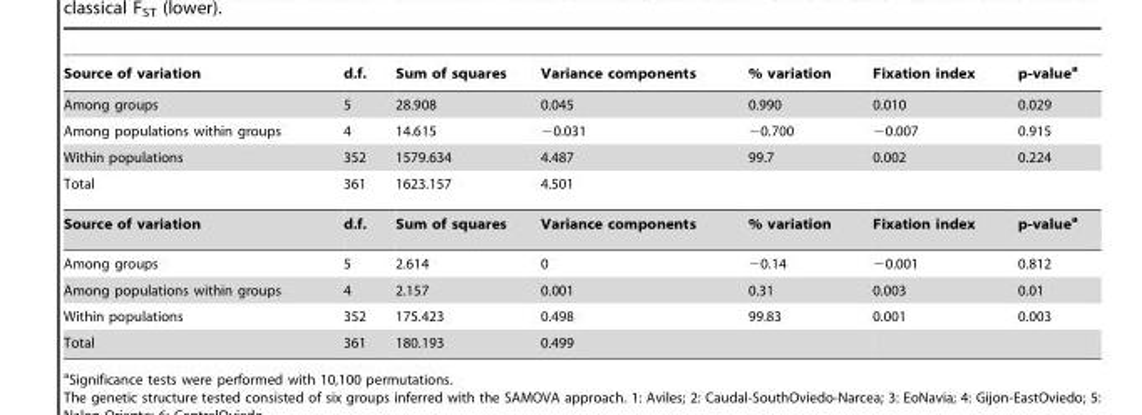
<table><thead><tr><td>Source of variation</td><td>d.f.</td><td>Sum of squares</td><td>Variance components</td><td>% variation</td><td>Fixation index</td><td>p-value<sup>a</sup></td></tr></thead><tbody><tr><td>Among groups</td><td>5</td><td>28.908</td><td>0.045</td><td>0.990</td><td>0.010</td><td>0.029</td></tr><tr><td>Among populations within groups</td><td>4</td><td>14.615</td><td>−0.031</td><td>−0.700</td><td>−0.007</td><td>0.915</td></tr><tr><td>Within populations</td><td>352</td><td>1579.634</td><td>4.487</td><td>99.7</td><td>0.002</td><td>0.224</td></tr><tr><td>Total</td><td>361</td><td>1623.157</td><td>4.501</td><td></td><td></td><td></td></tr><tr><td>Source of variation</td><td>d.f.</td><td>Sum of squares</td><td>Variance components</td><td>% variation</td><td>Fixation index</td><td>p-valuea</td></tr><tr><td>Among groups</td><td>5</td><td>2.614</td><td>0</td><td>−0.14</td><td>−0.001</td><td>0.812</td></tr><tr><td>Among populations within groups</td><td>4</td><td>2.157</td><td>0.001</td><td>0.31</td><td>0.003</td><td>0.01</td></tr><tr><td>Within populations</td><td>352</td><td>175.423</td><td>0.498</td><td>99.83</td><td>0.001</td><td>0.003</td></tr><tr><td>Total</td><td>361</td><td>180.193</td><td>0.499</td><td></td><td></td><td></td></tr></tbody></table>